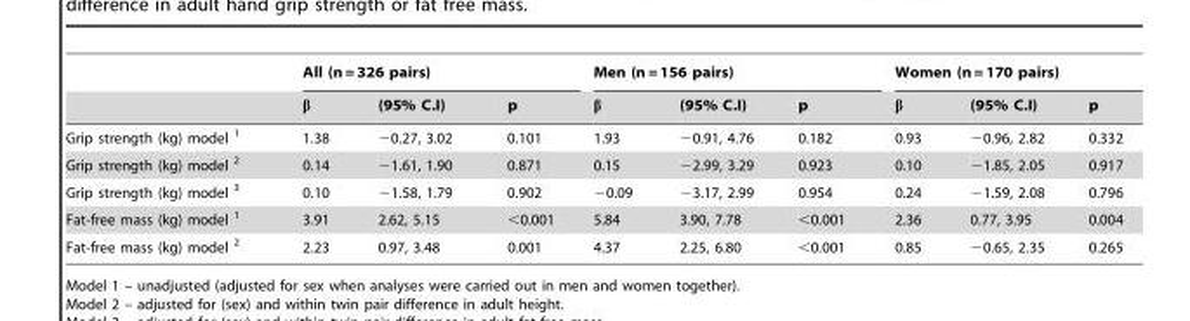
<table><thead><tr><td rowspan="2"></td><td colspan="3">All (n = 326 pairs)</td><td colspan="3">Men (n = 156 pairs)</td><td colspan="3">Women (n = 170 pairs)</td></tr><tr><td>β</td><td>(95% C.I)</td><td>p</td><td>β</td><td>(95% C.I)</td><td>p</td><td>β</td><td>(95% C.I)</td><td>p</td></tr></thead><tbody><tr><td>Grip strength (kg) model 1</td><td>1.38</td><td>−0.27, 3.02</td><td>0.101</td><td>1.93</td><td>−0.91, 4.76</td><td>0.182</td><td>0.93</td><td>−0.96, 2.82</td><td>0.332</td></tr><tr><td>Grip strength (kg) model 2</td><td>0.14</td><td>−1.61, 1.90</td><td>0.871</td><td>0.15</td><td>−2.99, 3.29</td><td>0.923</td><td>0.10</td><td>−1.85, 2.05</td><td>0.917</td></tr><tr><td>Grip strength (kg) model 3</td><td>0.10</td><td>−1.58, 1.79</td><td>0.902</td><td>−0.09</td><td>−3.17, 2.99</td><td>0.954</td><td>0.24</td><td>−1.59, 2.08</td><td>0.796</td></tr><tr><td>Fat-free mass (kg) model 1</td><td>3.91</td><td>2.62, 5.15</td><td>&lt;0.001</td><td>5.84</td><td>3.90, 7.78</td><td>&lt;0.001</td><td>2.36</td><td>0.77, 3.95</td><td>0.004</td></tr><tr><td>Fat-free mass (kg) model 2</td><td>2.23</td><td>0.97, 3.48</td><td>0.001</td><td>4.37</td><td>2.25, 6.80</td><td>&lt;0.001</td><td>0.85</td><td>−0.65, 2.35</td><td>0.265</td></tr></tbody></table>